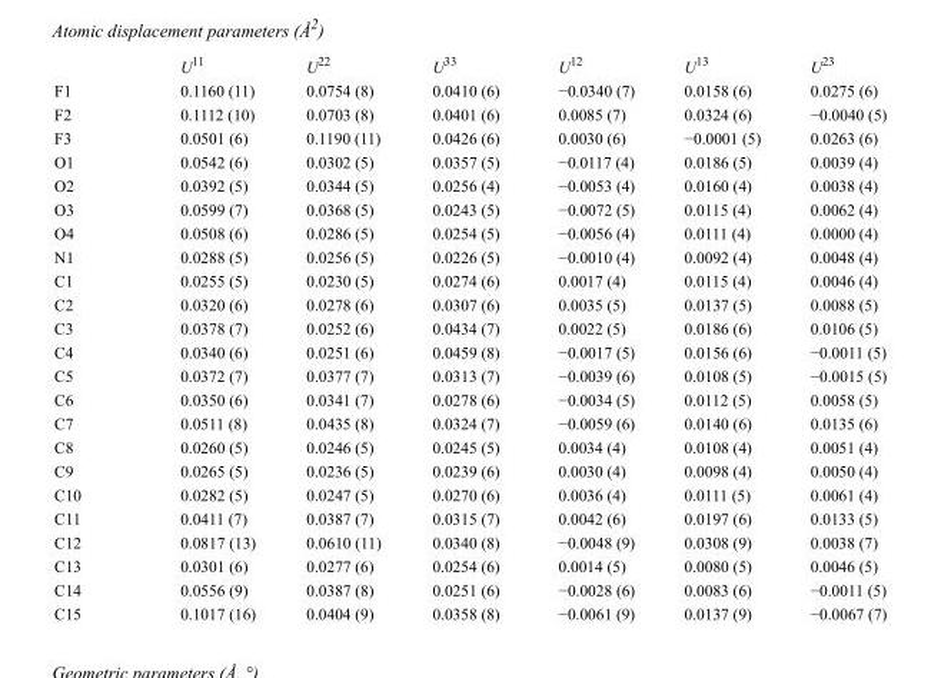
<table><thead><tr><td></td><td>U<sup>11</sup></td><td>U<sup>22</sup></td><td>U<sup>33</sup></td><td>U<sup>12</sup></td><td>U<sup>13</sup></td><td>U<sup>23</sup></td></tr></thead><tbody><tr><td>F1</td><td>0.1160 (11)</td><td>0.0754 (8)</td><td>0.0410 (6)</td><td>−0.0340 (7)</td><td>0.0158 (6)</td><td>0.0275 (6)</td></tr><tr><td>F2</td><td>0.1112 (10)</td><td>0.0703 (8)</td><td>0.0401 (6)</td><td>0.0085 (7)</td><td>0.0324 (6)</td><td>−0.0040 (5)</td></tr><tr><td>F3</td><td>0.0501 (6)</td><td>0.1190 (11)</td><td>0.0426 (6)</td><td>0.0030 (6)</td><td>−0.0001 (5)</td><td>0.0263 (6)</td></tr><tr><td>O1</td><td>0.0542 (6)</td><td>0.0302 (5)</td><td>0.0357 (5)</td><td>−0.0117 (4)</td><td>0.0186 (5)</td><td>0.0039 (4)</td></tr><tr><td>O2</td><td>0.0392 (5)</td><td>0.0344 (5)</td><td>0.0256 (4)</td><td>−0.0053 (4)</td><td>0.0160 (4)</td><td>0.0038 (4)</td></tr><tr><td>O3</td><td>0.0599 (7)</td><td>0.0368 (5)</td><td>0.0243 (5)</td><td>−0.0072 (5)</td><td>0.0115 (4)</td><td>0.0062 (4)</td></tr><tr><td>O4</td><td>0.0508 (6)</td><td>0.0286 (5)</td><td>0.0254 (5)</td><td>−0.0056 (4)</td><td>0.0111 (4)</td><td>0.0000 (4)</td></tr><tr><td>N1</td><td>0.0288 (5)</td><td>0.0256 (5)</td><td>0.0226 (5)</td><td>−0.0010 (4)</td><td>0.0092 (4)</td><td>0.0048 (4)</td></tr><tr><td>C1</td><td>0.0255 (5)</td><td>0.0230 (5)</td><td>0.0274 (6)</td><td>0.0017 (4)</td><td>0.0115 (4)</td><td>0.0046 (4)</td></tr><tr><td>C2</td><td>0.0320 (6)</td><td>0.0278 (6)</td><td>0.0307 (6)</td><td>0.0035 (5)</td><td>0.0137 (5)</td><td>0.0088 (5)</td></tr><tr><td>C3</td><td>0.0378 (7)</td><td>0.0252 (6)</td><td>0.0434 (7)</td><td>0.0022 (5)</td><td>0.0186 (6)</td><td>0.0106 (5)</td></tr><tr><td>C4</td><td>0.0340 (6)</td><td>0.0251 (6)</td><td>0.0459 (8)</td><td>−0.0017 (5)</td><td>0.0156 (6)</td><td>−0.0011 (5)</td></tr><tr><td>C5</td><td>0.0372 (7)</td><td>0.0377 (7)</td><td>0.0313 (7)</td><td>−0.0039 (6)</td><td>0.0108 (5)</td><td>−0.0015 (5)</td></tr><tr><td>C6</td><td>0.0350 (6)</td><td>0.0341 (7)</td><td>0.0278 (6)</td><td>−0.0034 (5)</td><td>0.0112 (5)</td><td>0.0058 (5)</td></tr><tr><td>C7</td><td>0.0511 (8)</td><td>0.0435 (8)</td><td>0.0324 (7)</td><td>−0.0059 (6)</td><td>0.0140 (6)</td><td>0.0135 (6)</td></tr><tr><td>C8</td><td>0.0260 (5)</td><td>0.0246 (5)</td><td>0.0245 (5)</td><td>0.0034 (4)</td><td>0.0108 (4)</td><td>0.0051 (4)</td></tr><tr><td>C9</td><td>0.0265 (5)</td><td>0.0236 (5)</td><td>0.0239 (6)</td><td>0.0030 (4)</td><td>0.0098 (4)</td><td>0.0050 (4)</td></tr><tr><td>C10</td><td>0.0282 (5)</td><td>0.0247 (5)</td><td>0.0270 (6)</td><td>0.0036 (4)</td><td>0.0111 (5)</td><td>0.0061 (4)</td></tr><tr><td>C11</td><td>0.0411 (7)</td><td>0.0387 (7)</td><td>0.0315 (7)</td><td>0.0042 (6)</td><td>0.0197 (6)</td><td>0.0133 (5)</td></tr><tr><td>C12</td><td>0.0817 (13)</td><td>0.0610 (11)</td><td>0.0340 (8)</td><td>−0.0048 (9)</td><td>0.0308 (9)</td><td>0.0038 (7)</td></tr><tr><td>C13</td><td>0.0301 (6)</td><td>0.0277 (6)</td><td>0.0254 (6)</td><td>0.0014 (5)</td><td>0.0080 (5)</td><td>0.0046 (5)</td></tr><tr><td>C14</td><td>0.0556 (9)</td><td>0.0387 (8)</td><td>0.0251 (6)</td><td>−0.0028 (6)</td><td>0.0083 (6)</td><td>−0.0011 (5)</td></tr><tr><td>C15</td><td>0.1017 (16)</td><td>0.0404 (9)</td><td>0.0358 (8)</td><td>−0.0061 (9)</td><td>0.0137 (9)</td><td>−0.0067 (7)</td></tr></tbody></table>